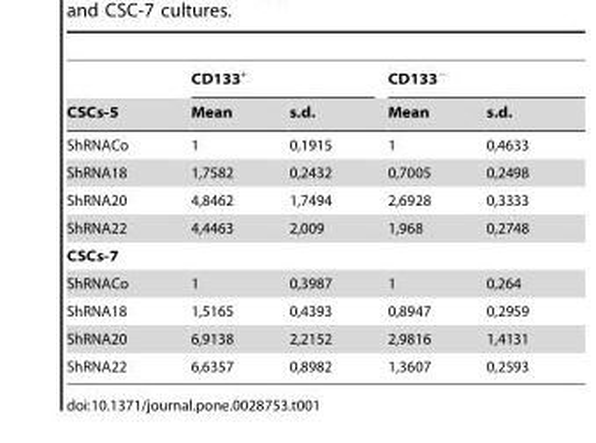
<table><thead><tr><td rowspan="2">CSCs-5</td><td colspan="2">CD133<sup>+</sup></td><td colspan="2">CD133<sup>−</sup></td></tr><tr><td>Mean</td><td>s.d.</td><td>Mean</td><td>s.d.</td></tr></thead><tbody><tr><td>ShRNACo</td><td>1</td><td>0,1915</td><td>1</td><td>0,4633</td></tr><tr><td>ShRNA18</td><td>1,7582</td><td>0,2432</td><td>0,7005</td><td>0,2498</td></tr><tr><td>ShRNA20</td><td>4,8462</td><td>1,7494</td><td>2,6928</td><td>0,3333</td></tr><tr><td>ShRNA22</td><td>4,4463</td><td>2,009</td><td>1,968</td><td>0,2748</td></tr><tr><td colspan="5">CSCs-7</td></tr><tr><td>ShRNACo</td><td>1</td><td>0,3987</td><td>1</td><td>0,264</td></tr><tr><td>ShRNA18</td><td>1,5165</td><td>0,4393</td><td>0,8947</td><td>0,2959</td></tr><tr><td>ShRNA20</td><td>6,9138</td><td>2,2152</td><td>2,9816</td><td>1,4131</td></tr><tr><td>ShRNA22</td><td>6,6357</td><td>0,8982</td><td>1,3607</td><td>0,2593</td></tr></tbody></table>